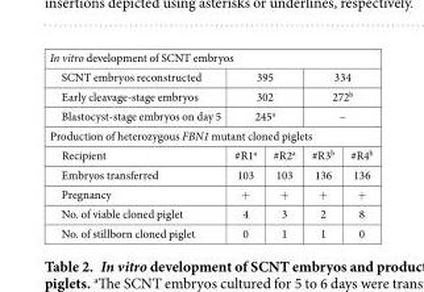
<table><tbody><tr><td colspan="5">In vitro development of SCNT embryos</td></tr><tr><td>SCNT embryos reconstructed</td><td colspan="2">395</td><td colspan="2">334</td></tr><tr><td>Early cleavage-stage embryos</td><td colspan="2">302</td><td colspan="2">272<sup>b</sup></td></tr><tr><td>Blastocyst-stage embryos on day 5</td><td colspan="2">245<sup>a</sup></td><td colspan="2">–</td></tr><tr><td colspan="5">Production of heterozygous FBN1 mutant cloned piglets</td></tr><tr><td>Recipient</td><td>#R1<sup>a</sup></td><td>#R2<sup>a</sup></td><td>#R3<sup>b</sup></td><td>#R4<sup>b</sup></td></tr><tr><td>Embryos transferred</td><td>103</td><td>103</td><td>136</td><td>136</td></tr><tr><td>Pregnancy</td><td>+</td><td>+</td><td>+</td><td>+</td></tr><tr><td>No. of viable cloned piglet</td><td>4</td><td>3</td><td>2</td><td>8</td></tr><tr><td>No. of stillborn cloned piglet</td><td>0</td><td>1</td><td>1</td><td>0</td></tr></tbody></table>